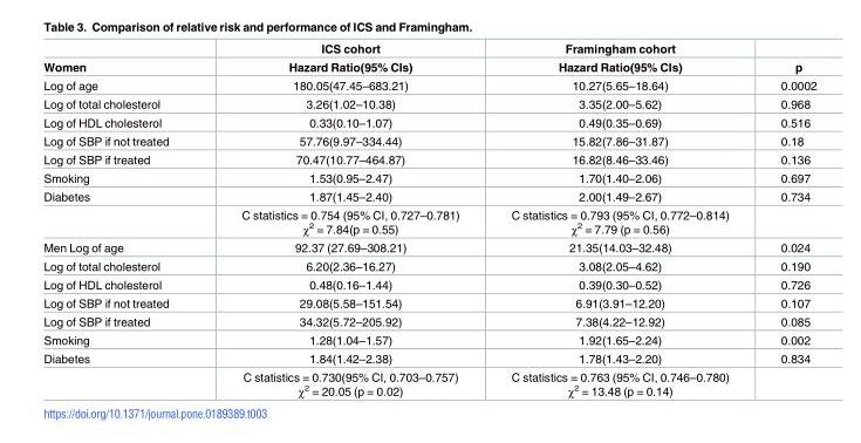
<table><thead><tr><td rowspan="2">Women</td><td rowspan="2">ICS cohort Hazard Ratio(95% CIs)</td><td rowspan="2">Framingham cohort Hazard Ratio(95% CIs)</td><td rowspan="2">p</td></tr><tr></tr></thead><tbody><tr><td>Log of age</td><td>180.05(47.45–683.21)</td><td>10.27(5.65–18.64)</td><td>0.0002</td></tr><tr><td>Log of total cholesterol</td><td>3.26(1.02–10.38)</td><td>3.35(2.00–5.62)</td><td>0.968</td></tr><tr><td>Log of HDL cholesterol</td><td>0.33(0.10–1.07)</td><td>0.49(0.35–0.69)</td><td>0.516</td></tr><tr><td>Log of SBP if not treated</td><td>57.76(9.97–334.44)</td><td>15.82(7.86–31.87)</td><td>0.18</td></tr><tr><td>Log of SBP if treated</td><td>70.47(10.77–464.87)</td><td>16.82(8.46–33.46)</td><td>0.136</td></tr><tr><td>Smoking</td><td>1.53(0.95–2.47)</td><td>1.70(1.40–2.06)</td><td>0.697</td></tr><tr><td rowspan="2">Diabetes</td><td>1.87(1.45–2.40)</td><td>2.00(1.49–2.67)</td><td>0.734</td></tr><tr><td>C statistics = 0.754 (95% CI, 0.727–0.781) χ<sup>2</sup> = 7.84(p = 0.55)</td><td>C statistics = 0.793 (95% CI, 0.772–0.814) χ<sup>2</sup> = 7.79 (p = 0.56)</td><td></td></tr><tr><td>Men Log of age</td><td>92.37 (27.69–308.21)</td><td>21.35(14.03–32.48)</td><td>0.024</td></tr><tr><td>Log of total cholesterol</td><td>6.20(2.36–16.27)</td><td>3.08(2.05–4.62)</td><td>0.190</td></tr><tr><td>Log of HDL cholesterol</td><td>0.48(0.16–1.44)</td><td>0.39(0.30–0.52)</td><td>0.726</td></tr><tr><td>Log of SBP if not treated</td><td>29.08(5.58–151.54)</td><td>6.91(3.91–12.20)</td><td>0.107</td></tr><tr><td>Log of SBP if treated</td><td>34.32(5.72–205.92)</td><td>7.38(4.22–12.92)</td><td>0.085</td></tr><tr><td>Smoking</td><td>1.28(1.04–1.57)</td><td>1.92(1.65–2.24)</td><td>0.002</td></tr><tr><td rowspan="2">Diabetes</td><td>1.84(1.42–2.38)</td><td>1.78(1.43–2.20)</td><td>0.834</td></tr><tr><td>C statistics = 0.730(95% CI, 0.703–0.757) χ<sup>2</sup> = 20.05 (p = 0.02)</td><td>C statistics = 0.763 (95% CI, 0.746–0.780) χ<sup>2</sup> = 13.48 (p = 0.14)</td><td></td></tr></tbody></table>